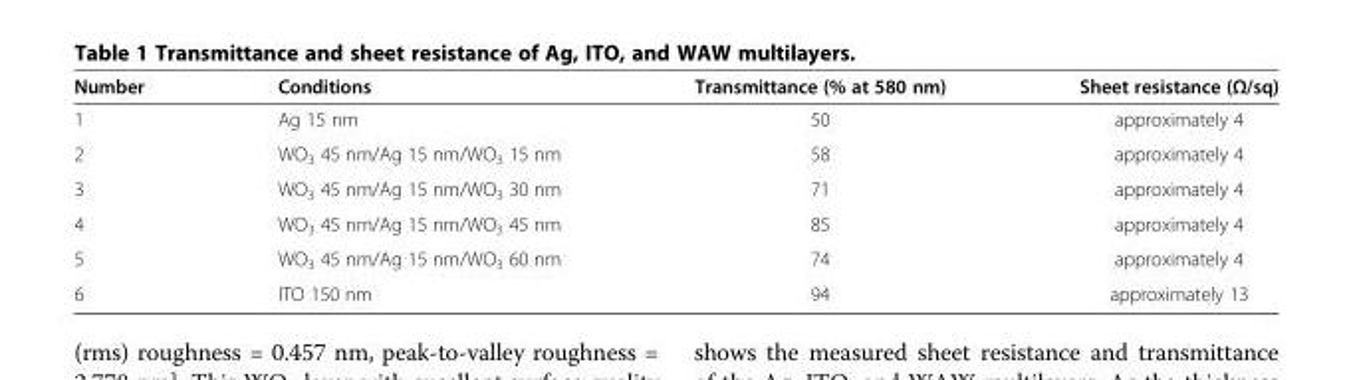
<table><thead><tr><td>Number</td><td>Conditions</td><td>Transmittance (% at 580 nm)</td><td>Sheet resistance (Ω/sq)</td></tr></thead><tbody><tr><td>1</td><td>Ag 15 nm</td><td>50</td><td>approximately 4</td></tr><tr><td>2</td><td>WO<sub>3</sub> 45 nm/Ag 15 nm/WO<sub>3</sub> 15 nm</td><td>58</td><td>approximately 4</td></tr><tr><td>3</td><td>WO<sub>3</sub> 45 nm/Ag 15 nm/WO<sub>3</sub> 30 nm</td><td>71</td><td>approximately 4</td></tr><tr><td>4</td><td>WO<sub>3</sub> 45 nm/Ag 15 nm/WO<sub>3</sub> 45 nm</td><td>85</td><td>approximately 4</td></tr><tr><td>5</td><td>WO<sub>3</sub> 45 nm/Ag 15 nm/WO<sub>3</sub> 60 nm</td><td>74</td><td>approximately 4</td></tr><tr><td>6</td><td>ITO 150 nm</td><td>94</td><td>approximately 13</td></tr></tbody></table>